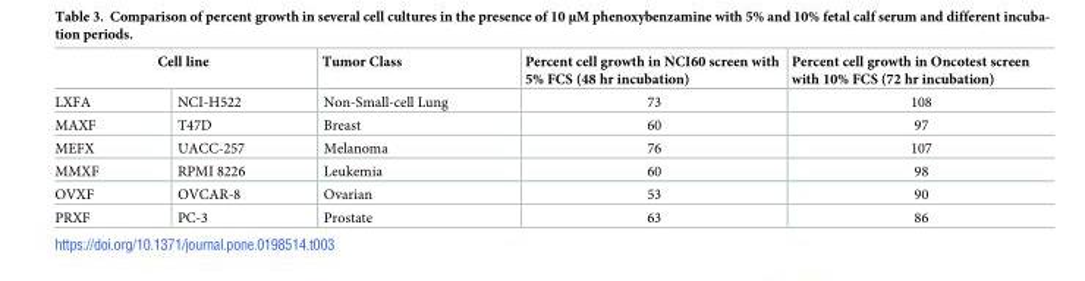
<table><thead><tr><td colspan="2">Cell line</td><td rowspan="2">Tumor Class Non-Small-cell Lung</td><td rowspan="2">Percent cell growth in NCI60 screen with 5% FCS (48 hr incubation) 73</td><td rowspan="2">Percent cell growth in Oncotest screen with 10% FCS (72 hr incubation) 108</td></tr><tr><td>LXFA</td><td>NCI-H522</td></tr></thead><tbody><tr><td>MAXF</td><td>T47D</td><td>Breast</td><td>60</td><td>97</td></tr><tr><td>MEFX</td><td>UACC-257</td><td>Melanoma</td><td>76</td><td>107</td></tr><tr><td>MMXF</td><td>RPMI 8226</td><td>Leukemia</td><td>60</td><td>98</td></tr><tr><td>OVXF</td><td>OVCAR-8</td><td>Ovarian</td><td>53</td><td>90</td></tr><tr><td>PRXF</td><td>PC-3</td><td>Prostate</td><td>63</td><td>86</td></tr></tbody></table>